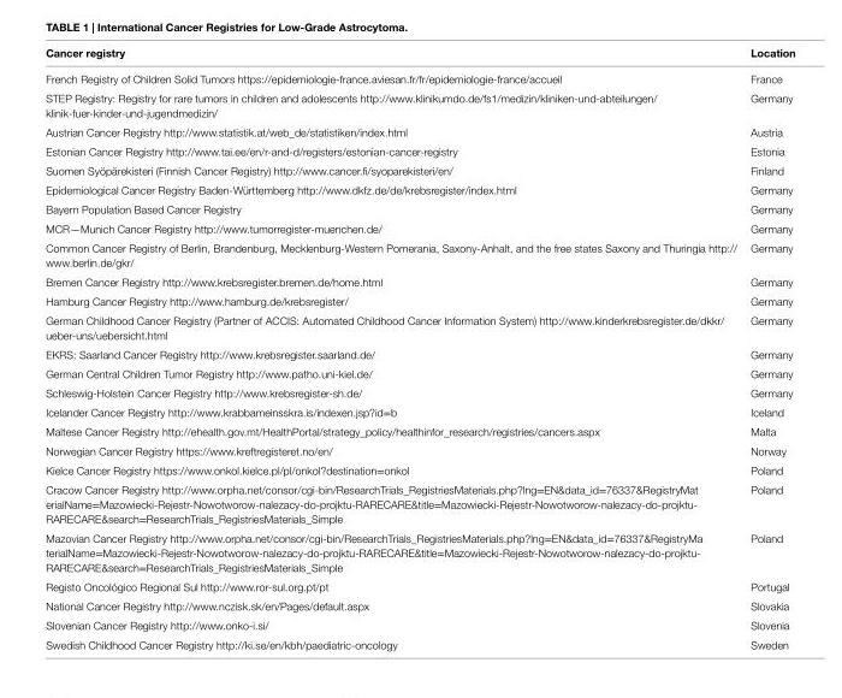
<table><thead><tr><td>Cancer registry</td><td>Location</td></tr></thead><tbody><tr><td>French Registry of Children Solid Tumors https://epidemiologie-france.aviesan.fr/fr/epidemiologie-france/accueil</td><td>France</td></tr><tr><td>STEP Registry: Registry for rare tumors in children and adolescents http://www.klinikumdo.de/fs1/medizin/kliniken-und-abteilungen/ klinik-fuer-kinder-und-jugendmedizin/</td><td>Germany</td></tr><tr><td>Austrian Cancer Registry http://www.statistik.at/web_de/statistiken/index.html</td><td>Austria</td></tr><tr><td>Estonian Cancer Registry http://www.tai.ee/en/r-and-d/registers/estonian-cancer-registry</td><td>Estonia</td></tr><tr><td>Suomen Syöpärekisteri (Finnish Cancer Registry) http://www.cancer.fi/syoparekisteri/en/</td><td>Finland</td></tr><tr><td>Epidemiological Cancer Registry Baden-Württemberg http://www.dkfz.de/de/krebsregister/index.html</td><td>Germany</td></tr><tr><td>Bayern Population Based Cancer Registry</td><td>Germany</td></tr><tr><td>MCR—Munich Cancer Registry http://www.tumorregister-muenchen.de/</td><td>Germany</td></tr><tr><td>Common Cancer Registry of Berlin, Brandenburg, Mecklenburg-Western Pomerania, Saxony-Anhalt, and the free states Saxony and Thuringia http:// www.berlin.de/gkr/</td><td>Germany</td></tr><tr><td>Bremen Cancer Registry http://www.krebsregister.bremen.de/home.html</td><td>Germany</td></tr><tr><td>Hamburg Cancer Registry http://www.hamburg.de/krebsregister/</td><td>Germany</td></tr><tr><td>German Childhood Cancer Registry (Partner of ACCIS: Automated Childhood Cancer Information System) http://www.kinderkrebsregister.de/dkkr/ ueber-uns/uebersicht.html</td><td>Germany</td></tr><tr><td>EKRS: Saarland Cancer Registry http://www.krebsregister.saarland.de/</td><td>Germany</td></tr><tr><td>German Central Children Tumor Registry http://www.patho.uni-kiel.de/</td><td>Germany</td></tr><tr><td>Schleswig-Holstein Cancer Registry http://www.krebsregister-sh.de/</td><td>Germany</td></tr><tr><td>Icelander Cancer Registry http://www.krabbameinsskra.is/indexen.jsp?id=b</td><td>Iceland</td></tr><tr><td>Maltese Cancer Registry http://ehealth.gov.mt/HealthPortal/strategy_policy/healthinfor_research/registries/cancers.aspx</td><td>Malta</td></tr><tr><td>Norwegian Cancer Registry https://www.kreftregisteret.no/en/</td><td>Norway</td></tr><tr><td>Kielce Cancer Registry https://www.onkol.kielce.pl/pl/onkol?destination=onkol</td><td>Poland</td></tr><tr><td>Cracow Cancer Registry http://www.orpha.net/consor/cgi-bin/ResearchTrials_RegistriesMaterials.php?lng=EN&amp;data_id=76337&amp;RegistryMat erialName=Mazowiecki-Rejestr-Nowotworow-nalezacy-do-projktu-RARECARE&amp;title=Mazowiecki-Rejestr-Nowotworow-nalezacy-do-projktu- RARECARE&amp;search=ResearchTrials_RegistriesMaterials_Simple</td><td>Poland</td></tr><tr><td>Mazovian Cancer Registry http://www.orpha.net/consor/cgi-bin/ResearchTrials_RegistriesMaterials.php?lng=EN&amp;data_id=76337&amp;RegistryMa terialName=Mazowiecki-Rejestr-Nowotworow-nalezacy-do-projktu-RARECARE&amp;title=Mazowiecki-Rejestr-Nowotworow-nalezacy-do-projktu- RARECARE&amp;search=ResearchTrials_RegistriesMaterials_Simple</td><td>Poland</td></tr><tr><td>Registo Oncológico Regional Sul http://www.ror-sul.org.pt/pt</td><td>Portugal</td></tr><tr><td>National Cancer Registry http://www.nczisk.sk/en/Pages/default.aspx</td><td>Slovakia</td></tr><tr><td>Slovenian Cancer Registry http://www.onko-i.si/</td><td>Slovenia</td></tr><tr><td>Swedish Childhood Cancer Registry http://ki.se/en/kbh/paediatric-oncology</td><td>Sweden</td></tr></tbody></table>